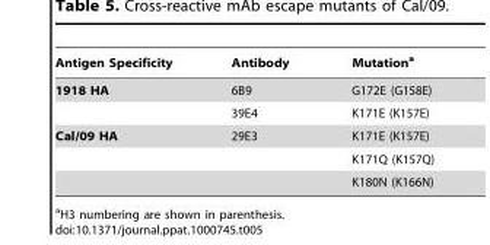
<table><thead><tr><td>Antigen Specificity</td><td>Antibody</td><td>Mutation<sup>a</sup></td></tr></thead><tbody><tr><td rowspan="2">1918 HA</td><td>6B9</td><td>G172E (G158E)</td></tr><tr><td>39E4</td><td>K171E (K157E)</td></tr><tr><td rowspan="3">Cal/09 HA</td><td>29E3</td><td>K171E (K157E)</td></tr><tr><td></td><td>K171Q (K157Q)</td></tr><tr><td></td><td>K180N (K166N)</td></tr></tbody></table>